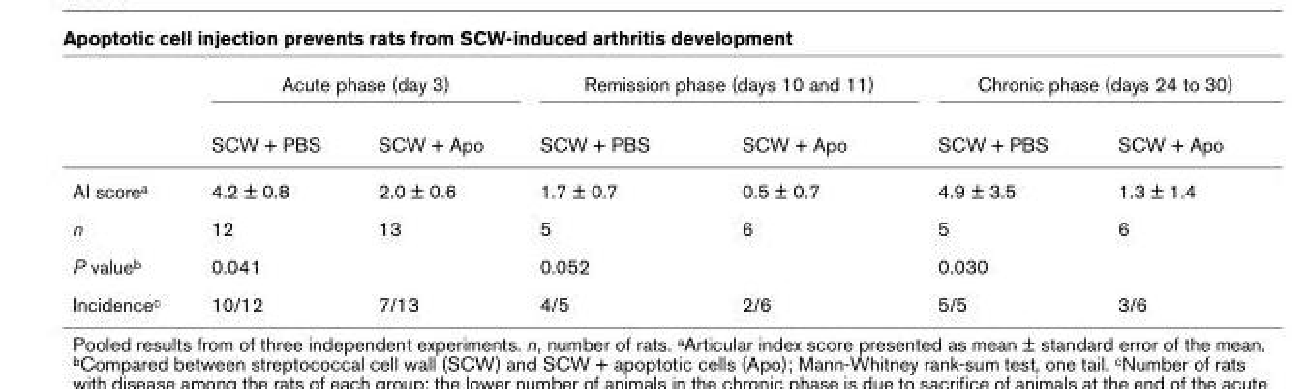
<table><thead><tr><td rowspan="2"></td><td colspan="2">Acute phase (day 3)</td><td colspan="2">Remission phase (days 10 and 11)</td><td colspan="2">Chronic phase (days 24 to 30)</td></tr><tr><td>SCW + PBS</td><td>SCW + Apo</td><td>SCW + PBS</td><td>SCW + Apo</td><td>SCW + PBS</td><td>SCW + Apo</td></tr></thead><tbody><tr><td>AI score<sup>a</sup></td><td>4.2 ± 0.8</td><td>2.0 ± 0.6</td><td>1.7 ± 0.7</td><td>0.5 ± 0.7</td><td>4.9 ± 3.5</td><td>1.3 ± 1.4</td></tr><tr><td>n</td><td>12</td><td>13</td><td>5</td><td>6</td><td>5</td><td>6</td></tr><tr><td>P value<sup>b</sup></td><td>0.041</td><td></td><td>0.052</td><td></td><td>0.030</td><td></td></tr><tr><td>Incidence<sup>c</sup></td><td>10/12</td><td>7/13</td><td>4/5</td><td>2/6</td><td>5/5</td><td>3/6</td></tr></tbody></table>